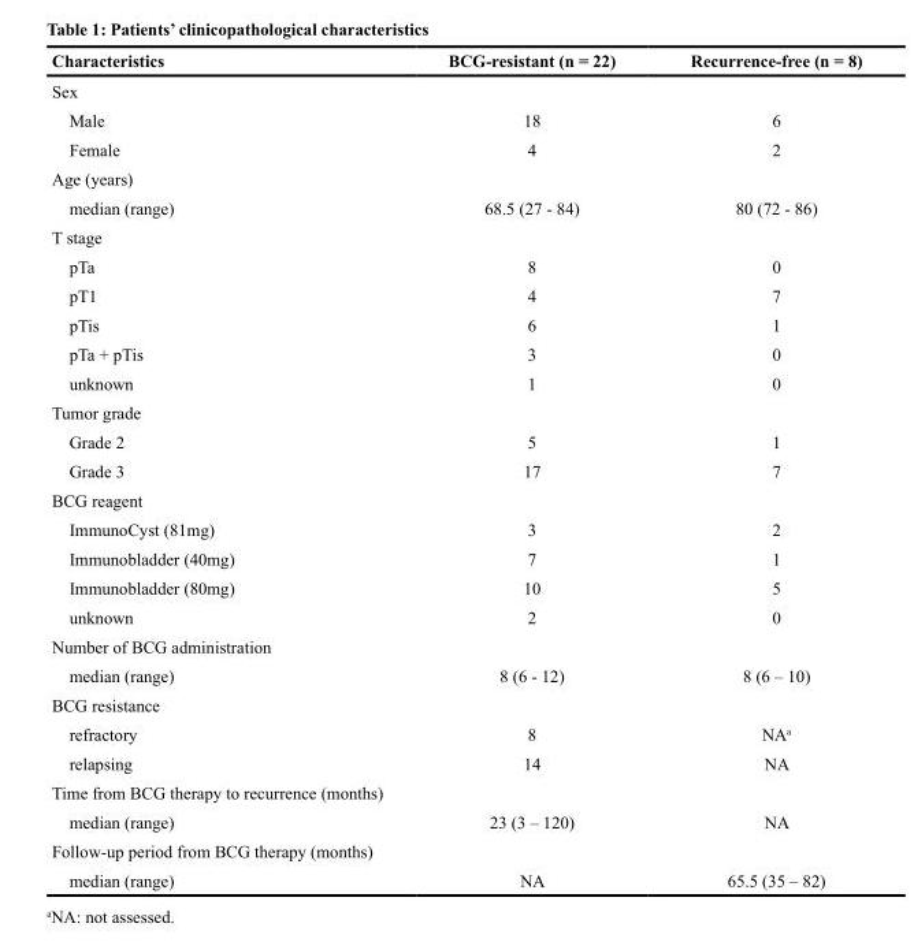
<table><thead><tr><td>Characteristics</td><td>BCG-resistant (n = 22)</td><td>Recurrence-free (n = 8)</td></tr></thead><tbody><tr><td colspan="3">Sex</td></tr><tr><td>Male</td><td>18</td><td>6</td></tr><tr><td>Female</td><td>4</td><td>2</td></tr><tr><td colspan="3">Age (years)</td></tr><tr><td>median (range)</td><td>68.5 (27 - 84)</td><td>80 (72 - 86)</td></tr><tr><td colspan="3">T stage</td></tr><tr><td>pTa</td><td>8</td><td>0</td></tr><tr><td>pT1</td><td>4</td><td>7</td></tr><tr><td>pTis</td><td>6</td><td>1</td></tr><tr><td>pTa + pTis</td><td>3</td><td>0</td></tr><tr><td>unknown</td><td>1</td><td>0</td></tr><tr><td colspan="3">Tumor grade</td></tr><tr><td>Grade 2</td><td>5</td><td>1</td></tr><tr><td>Grade 3</td><td>17</td><td>7</td></tr><tr><td colspan="3">BCG reagent</td></tr><tr><td>ImmunoCyst (81mg)</td><td>3</td><td>2</td></tr><tr><td>Immunobladder (40mg)</td><td>7</td><td>1</td></tr><tr><td>Immunobladder (80mg)</td><td>10</td><td>5</td></tr><tr><td>unknown</td><td>2</td><td>0</td></tr><tr><td colspan="3">Number of BCG administration</td></tr><tr><td>median (range)</td><td>8 (6 - 12)</td><td>8 (6 – 10)</td></tr><tr><td colspan="3">BCG resistance</td></tr><tr><td>refractory</td><td>8</td><td>NA<sup>a</sup></td></tr><tr><td>relapsing</td><td>14</td><td>NA</td></tr><tr><td colspan="3">Time from BCG therapy to recurrence (months)</td></tr><tr><td>median (range)</td><td>23 (3 – 120)</td><td>NA</td></tr><tr><td colspan="3">Follow-up period from BCG therapy (months)</td></tr><tr><td>median (range)</td><td>NA</td><td>65.5 (35 – 82)</td></tr></tbody></table>